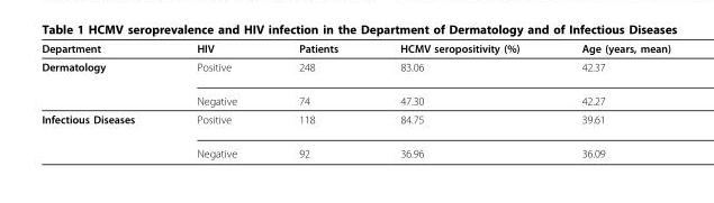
<table><thead><tr><td>Department</td><td>HIV</td><td>Patients</td><td>HCMV seropositivity (%)</td><td>Age (years, mean)</td></tr></thead><tbody><tr><td rowspan="2">Dermatology</td><td>Positive</td><td>248</td><td>83.06</td><td>42.37</td></tr><tr><td>Negative</td><td>74</td><td>47.30</td><td>42.27</td></tr><tr><td rowspan="2">Infectious Diseases</td><td>Positive</td><td>118</td><td>84.75</td><td>39.61</td></tr><tr><td>Negative</td><td>92</td><td>36.96</td><td>36.09</td></tr></tbody></table>